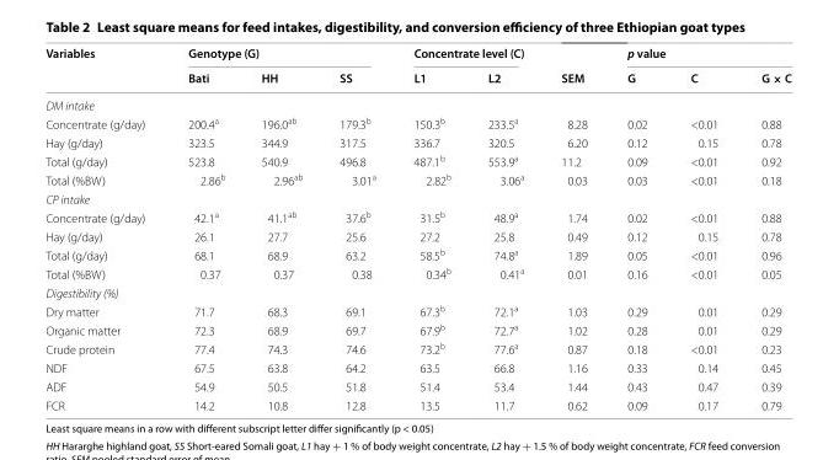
<table><thead><tr><td rowspan="2">Variables</td><td colspan="3">Genotype (G)</td><td colspan="2">Concentrate level (C)</td><td rowspan="2">SEM</td><td colspan="3">p value</td></tr><tr><td>Bati</td><td>HH</td><td>SS</td><td>L1</td><td>L2</td><td>G</td><td>C</td><td>G × C</td></tr></thead><tbody><tr><td colspan="10">DM intake</td></tr><tr><td>Concentrate (g/day)</td><td>200.4<sup>a</sup></td><td>196.0<sup>ab</sup></td><td>179.3<sup>b</sup></td><td>150.3<sup>b</sup></td><td>233.5<sup>a</sup></td><td>8.28</td><td>0.02</td><td>&lt;0.01</td><td>0.88</td></tr><tr><td>Hay (g/day)</td><td>323.5</td><td>344.9</td><td>317.5</td><td>336.7</td><td>320.5</td><td>6.20</td><td>0.12</td><td>0.15</td><td>0.78</td></tr><tr><td>Total (g/day)</td><td>523.8</td><td>540.9</td><td>496.8</td><td>487.1<sup>b</sup></td><td>553.9<sup>a</sup></td><td>11.2</td><td>0.09</td><td>&lt;0.01</td><td>0.92</td></tr><tr><td>Total (%BW)</td><td>2.86<sup>b</sup></td><td>2.96<sup>ab</sup></td><td>3.01<sup>a</sup></td><td>2.82<sup>b</sup></td><td>3.06<sup>a</sup></td><td>0.03</td><td>0.03</td><td>&lt;0.01</td><td>0.18</td></tr><tr><td colspan="10">CP intake</td></tr><tr><td>Concentrate (g/day)</td><td>42.1<sup>a</sup></td><td>41.1<sup>ab</sup></td><td>37.6<sup>b</sup></td><td>31.5<sup>b</sup></td><td>48.9<sup>a</sup></td><td>1.74</td><td>0.02</td><td>&lt;0.01</td><td>0.88</td></tr><tr><td>Hay (g/day)</td><td>26.1</td><td>27.7</td><td>25.6</td><td>27.2</td><td>25.8</td><td>0.49</td><td>0.12</td><td>0.15</td><td>0.78</td></tr><tr><td>Total (g/day)</td><td>68.1</td><td>68.9</td><td>63.2</td><td>58.5<sup>b</sup></td><td>74.8<sup>a</sup></td><td>1.89</td><td>0.05</td><td>&lt;0.01</td><td>0.96</td></tr><tr><td>Total (%BW)</td><td>0.37</td><td>0.37</td><td>0.38</td><td>0.34<sup>b</sup></td><td>0.41<sup>a</sup></td><td>0.01</td><td>0.16</td><td>&lt;0.01</td><td>0.05</td></tr><tr><td colspan="10">Digestibility (%)</td></tr><tr><td>Dry matter</td><td>71.7</td><td>68.3</td><td>69.1</td><td>67.3<sup>b</sup></td><td>72.1<sup>a</sup></td><td>1.03</td><td>0.29</td><td>0.01</td><td>0.29</td></tr><tr><td>Organic matter</td><td>72.3</td><td>68.9</td><td>69.7</td><td>67.9<sup>b</sup></td><td>72.7<sup>a</sup></td><td>1.02</td><td>0.28</td><td>0.01</td><td>0.29</td></tr><tr><td>Crude protein</td><td>77.4</td><td>74.3</td><td>74.6</td><td>73.2<sup>b</sup></td><td>77.6<sup>a</sup></td><td>0.87</td><td>0.18</td><td>&lt;0.01</td><td>0.23</td></tr><tr><td>NDF</td><td>67.5</td><td>63.8</td><td>64.2</td><td>63.5</td><td>66.8</td><td>1.16</td><td>0.33</td><td>0.14</td><td>0.45</td></tr><tr><td>ADF</td><td>54.9</td><td>50.5</td><td>51.8</td><td>51.4</td><td>53.4</td><td>1.44</td><td>0.43</td><td>0.47</td><td>0.39</td></tr><tr><td>FCR</td><td>14.2</td><td>10.8</td><td>12.8</td><td>13.5</td><td>11.7</td><td>0.62</td><td>0.09</td><td>0.17</td><td>0.79</td></tr></tbody></table>